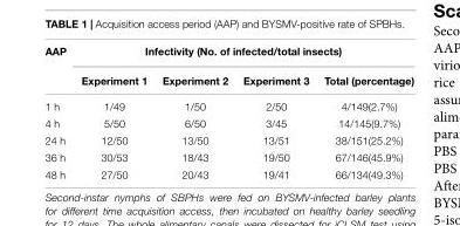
<table><thead><tr><td rowspan="2">AAP</td><td colspan="4">Infectivity (No. of infected/total insects)</td></tr><tr><td>Experiment 1</td><td>Experiment 2</td><td>Experiment 3</td><td>Total (percentage)</td></tr></thead><tbody><tr><td>1 h</td><td>1/49</td><td>1/50</td><td>2/50</td><td>4/149(2.7%)</td></tr><tr><td>4 h</td><td>5/50</td><td>6/50</td><td>3/45</td><td>14/145(9.7%)</td></tr><tr><td>24 h</td><td>12/50</td><td>13/50</td><td>13/51</td><td>38/151(25.2%)</td></tr><tr><td>36 h</td><td>30/53</td><td>18/43</td><td>19/50</td><td>67/146(45.9%)</td></tr><tr><td>48 h</td><td>27/50</td><td>20/43</td><td>19/41</td><td>66/134(49.3%)</td></tr></tbody></table>